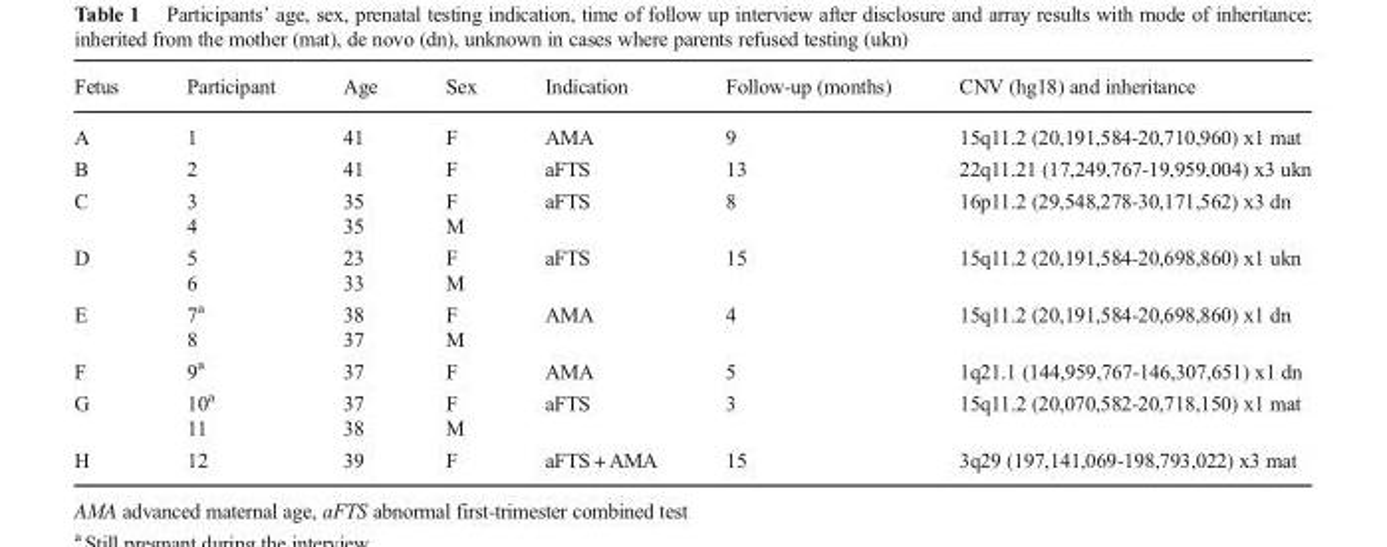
<table><thead><tr><td>Fetus</td><td>Participant</td><td>Age</td><td>Sex</td><td>Indication</td><td>Follow-up (months)</td><td>CNV (hg18) and inheritance</td></tr></thead><tbody><tr><td>A</td><td>1</td><td>41</td><td>F</td><td>AMA</td><td>9</td><td>15q11.2 (20,191,584-20,710,960) x1 mat</td></tr><tr><td>B</td><td>2</td><td>41</td><td>F</td><td>aFTS</td><td>13</td><td>22q11.21 (17,249,767-19,959,004) x3 ukn</td></tr><tr><td rowspan="2">C</td><td>3</td><td>35</td><td>F</td><td rowspan="2">aFTS</td><td rowspan="2">8</td><td rowspan="2">16p11.2 (29,548,278-30,171,562) x3 dn</td></tr><tr><td>4</td><td>35</td><td>M</td></tr><tr><td rowspan="2">D</td><td>5</td><td>23</td><td>F</td><td rowspan="2">aFTS</td><td rowspan="2">15</td><td rowspan="2">15q11.2 (20,191,584-20,698,860) x1 ukn</td></tr><tr><td>6</td><td>33</td><td>M</td></tr><tr><td rowspan="2">E</td><td>7<sup>a</sup></td><td>38</td><td>F</td><td rowspan="2">AMA</td><td rowspan="2">4</td><td rowspan="2">15q11.2 (20,191,584-20,698,860) x1 dn</td></tr><tr><td>8</td><td>37</td><td>M</td></tr><tr><td>F</td><td>9<sup>a</sup></td><td>37</td><td>F</td><td>AMA</td><td>5</td><td>1q21.1 (144,959,767-146,307,651) x1 dn</td></tr><tr><td rowspan="2">G</td><td>10<sup>a</sup></td><td>37</td><td>F</td><td rowspan="2">aFTS</td><td rowspan="2">3</td><td rowspan="2">15q11.2 (20,070,582-20,718,150) x1 mat</td></tr><tr><td>11</td><td>38</td><td>M</td></tr><tr><td>H</td><td>12</td><td>39</td><td>F</td><td>aFTS + AMA</td><td>15</td><td>3q29 (197,141,069-198,793,022) x3 mat</td></tr></tbody></table>